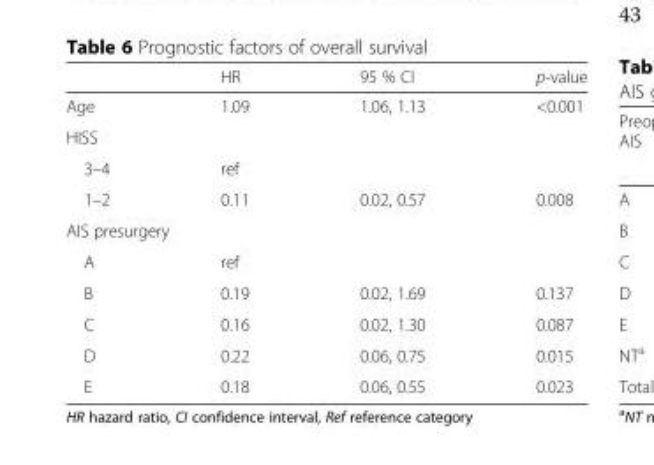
<table><thead><tr><td></td><td>HR</td><td>95 % CI</td><td>p-value</td></tr></thead><tbody><tr><td>Age</td><td>1.09</td><td>1.06, 1.13</td><td>&lt;0.001</td></tr><tr><td colspan="4">HISS</td></tr><tr><td>3–4</td><td colspan="2">ref</td><td></td></tr><tr><td>1–2</td><td>0.11</td><td>0.02, 0.57</td><td>0.008</td></tr><tr><td colspan="4">AIS presurgery</td></tr><tr><td>A</td><td colspan="2">ref</td><td></td></tr><tr><td>B</td><td>0.19</td><td>0.02, 1.69</td><td>0.137</td></tr><tr><td>C</td><td>0.16</td><td>0.02, 1.30</td><td>0.087</td></tr><tr><td>D</td><td>0.22</td><td>0.06, 0.75</td><td>0.015</td></tr><tr><td>E</td><td>0.18</td><td>0.06, 0.55</td><td>0.023</td></tr></tbody></table>